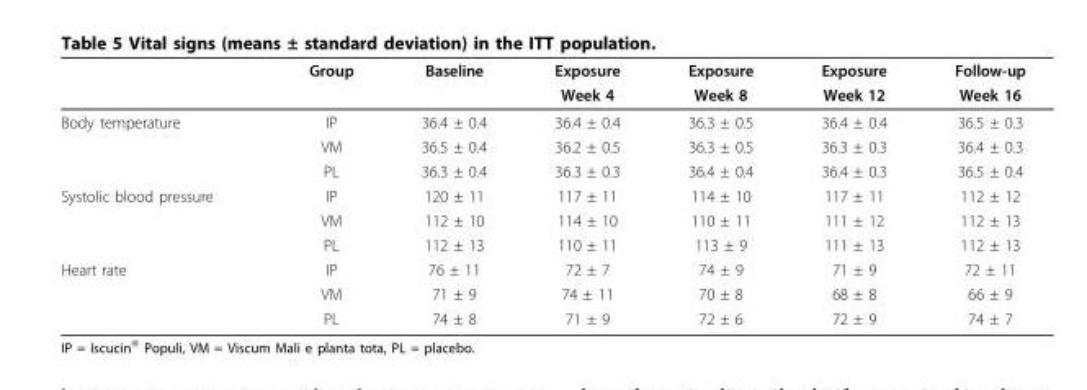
<table><thead><tr><td rowspan="2"></td><td rowspan="2">Group</td><td rowspan="2">Baseline</td><td rowspan="2">Exposure Week 4</td><td rowspan="2">Exposure Week 8</td><td rowspan="2">Exposure Week 12</td><td rowspan="2">Follow-up Week 16</td></tr><tr></tr></thead><tbody><tr><td rowspan="3">Body temperature</td><td>IP</td><td>36.4 ± 0.4</td><td>36.4 ± 0.4</td><td>36.3 ± 0.5</td><td>36.4 ± 0.4</td><td>36.5 ± 0.3</td></tr><tr><td>VM</td><td>36.5 ± 0.4</td><td>36.2 ± 0.5</td><td>36.3 ± 0.5</td><td>36.3 ± 0.3</td><td>36.4 ± 0.3</td></tr><tr><td>PL</td><td>36.3 ± 0.4</td><td>36.3 ± 0.3</td><td>36.4 ± 0.4</td><td>36.4 ± 0.3</td><td>36.5 ± 0.4</td></tr><tr><td rowspan="3">Systolic blood pressure</td><td>IP</td><td>120 ± 11</td><td>117 ± 11</td><td>114 ± 10</td><td>117 ± 11</td><td>112 ± 12</td></tr><tr><td>VM</td><td>112 ± 10</td><td>114 ± 10</td><td>110 ± 11</td><td>111 ± 12</td><td>112 ± 13</td></tr><tr><td>PL</td><td>112 ± 13</td><td>110 ± 11</td><td>113 ± 9</td><td>111 ± 13</td><td>112 ± 13</td></tr><tr><td rowspan="3">Heart rate</td><td>IP</td><td>76 ± 11</td><td>72 ± 7</td><td>74 ± 9</td><td>71 ± 9</td><td>72 ± 11</td></tr><tr><td>VM</td><td>71 ± 9</td><td>74 ± 11</td><td>70 ± 8</td><td>68 ± 8</td><td>66 ± 9</td></tr><tr><td>PL</td><td>74 ± 8</td><td>71 ± 9</td><td>72 ± 6</td><td>72 ± 9</td><td>74 ± 7</td></tr></tbody></table>